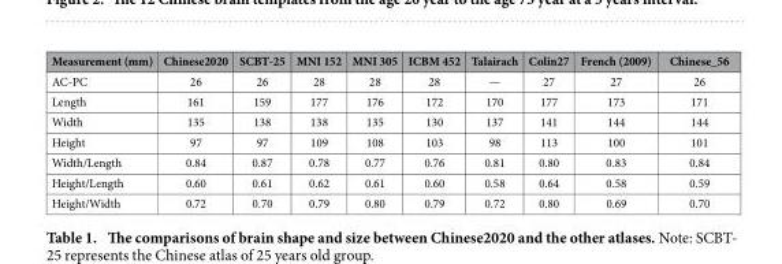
<table><thead><tr><td>Measurement (mm)</td><td>Chinese2020</td><td>SCBT-25</td><td>MNI 152</td><td>MNI 305</td><td>ICBM 452</td><td>Talairach</td><td>Colin27</td><td>French (2009)</td><td>Chinese_56</td></tr></thead><tbody><tr><td>AC-PC</td><td>26</td><td>26</td><td>28</td><td>28</td><td>28</td><td>—</td><td>27</td><td>27</td><td>26</td></tr><tr><td>Length</td><td>161</td><td>159</td><td>177</td><td>176</td><td>172</td><td>170</td><td>177</td><td>173</td><td>171</td></tr><tr><td>Width</td><td>135</td><td>138</td><td>138</td><td>135</td><td>130</td><td>137</td><td>141</td><td>144</td><td>144</td></tr><tr><td>Height</td><td>97</td><td>97</td><td>109</td><td>108</td><td>103</td><td>98</td><td>113</td><td>100</td><td>101</td></tr><tr><td>Width/Length</td><td>0.84</td><td>0.87</td><td>0.78</td><td>0.77</td><td>0.76</td><td>0.81</td><td>0.80</td><td>0.83</td><td>0.84</td></tr><tr><td>Height/Length</td><td>0.60</td><td>0.61</td><td>0.62</td><td>0.61</td><td>0.60</td><td>0.58</td><td>0.64</td><td>0.58</td><td>0.59</td></tr><tr><td>Height/Width</td><td>0.72</td><td>0.70</td><td>0.79</td><td>0.80</td><td>0.79</td><td>0.72</td><td>0.80</td><td>0.69</td><td>0.70</td></tr></tbody></table>